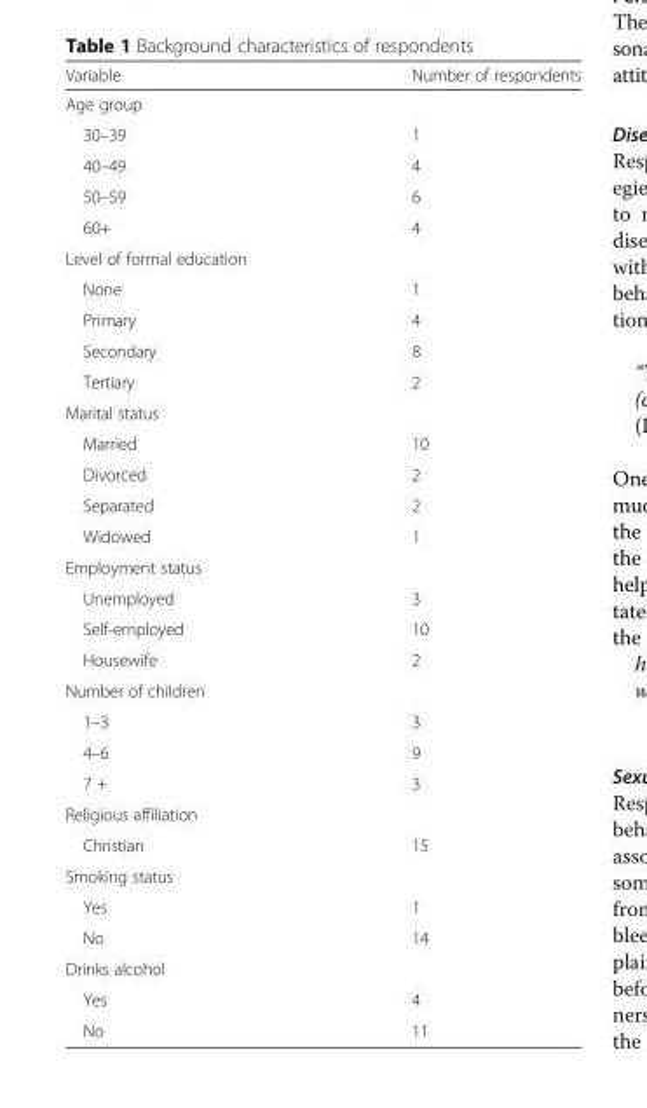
<table><thead><tr><td>Variable</td><td>Number of respondents</td></tr></thead><tbody><tr><td colspan="2">Age group</td></tr><tr><td>30–39</td><td>1</td></tr><tr><td>40–49</td><td>4</td></tr><tr><td>50–59</td><td>6</td></tr><tr><td>60+</td><td>4</td></tr><tr><td colspan="2">Level of formal education</td></tr><tr><td>None</td><td>1</td></tr><tr><td>Primary</td><td>4</td></tr><tr><td>Secondary</td><td>8</td></tr><tr><td>Tertiary</td><td>2</td></tr><tr><td colspan="2">Marital status</td></tr><tr><td>Married</td><td>10</td></tr><tr><td>Divorced</td><td>2</td></tr><tr><td>Separated</td><td>2</td></tr><tr><td>Widowed</td><td>1</td></tr><tr><td colspan="2">Employment status</td></tr><tr><td>Unemployed</td><td>3</td></tr><tr><td>Self-employed</td><td>10</td></tr><tr><td>Housewife</td><td>2</td></tr><tr><td colspan="2">Number of children</td></tr><tr><td>1–3</td><td>3</td></tr><tr><td>4–6</td><td>9</td></tr><tr><td>7 +</td><td>3</td></tr><tr><td colspan="2">Religious affiliation</td></tr><tr><td>Christian</td><td>15</td></tr><tr><td colspan="2">Smoking status</td></tr><tr><td>Yes</td><td>1</td></tr><tr><td>No</td><td>14</td></tr><tr><td colspan="2">Drinks alcohol</td></tr><tr><td>Yes</td><td>4</td></tr><tr><td>No</td><td>11</td></tr></tbody></table>